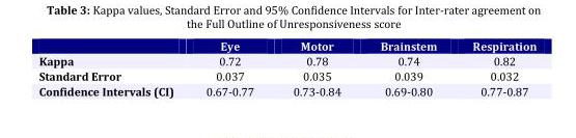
<table><thead><tr><td></td><td>Eye</td><td>Motor</td><td>Brainstem</td><td>Respiration</td></tr></thead><tbody><tr><td>Kappa</td><td>0.72</td><td>0.78</td><td>0.74</td><td>0.82</td></tr><tr><td>Standard Error</td><td>0.037</td><td>0.035</td><td>0.039</td><td>0.032</td></tr><tr><td>Confidence Intervals (CI)</td><td>0.67-0.77</td><td>0.73-0.84</td><td>0.69-0.80</td><td>0.77-0.87</td></tr></tbody></table>